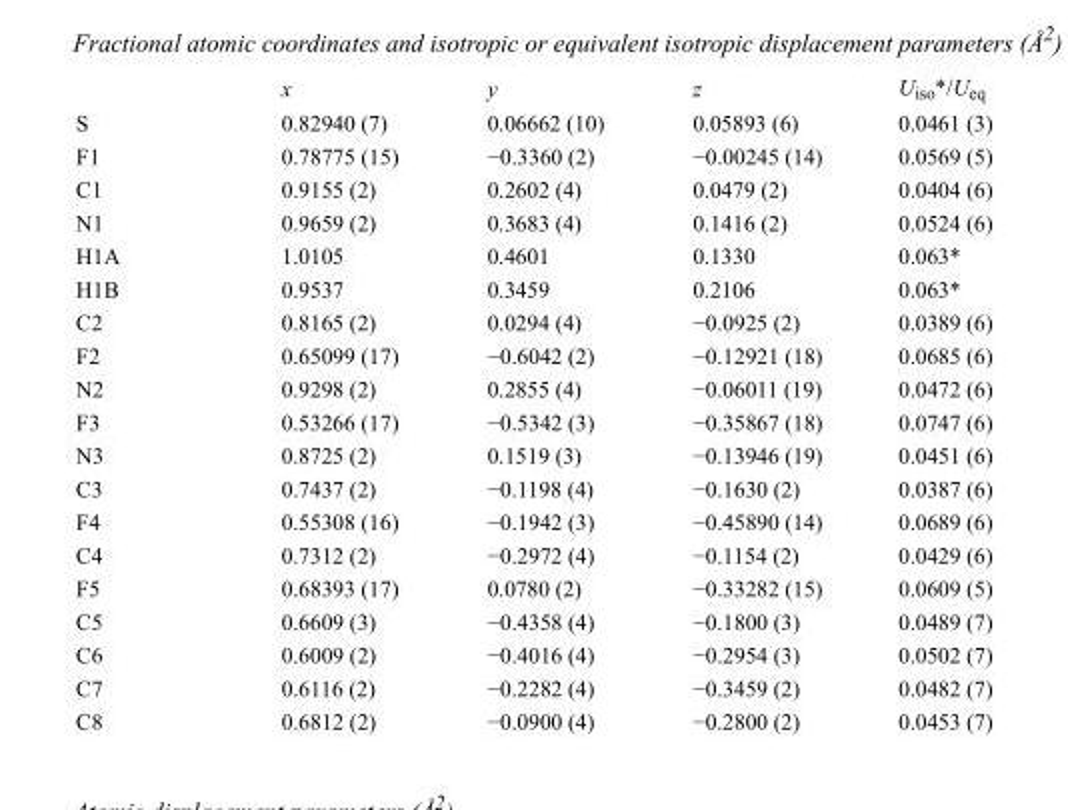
<table><thead><tr><td></td><td>x</td><td>y</td><td>z</td><td>U<sub>iso</sub>*/U<sub>eq</sub></td></tr></thead><tbody><tr><td>S</td><td>0.82940 (7)</td><td>0.06662 (10)</td><td>0.05893 (6)</td><td>0.0461 (3)</td></tr><tr><td>F1</td><td>0.78775 (15)</td><td>−0.3360 (2)</td><td>−0.00245 (14)</td><td>0.0569 (5)</td></tr><tr><td>C1</td><td>0.9155 (2)</td><td>0.2602 (4)</td><td>0.0479 (2)</td><td>0.0404 (6)</td></tr><tr><td>N1</td><td>0.9659 (2)</td><td>0.3683 (4)</td><td>0.1416 (2)</td><td>0.0524 (6)</td></tr><tr><td>H1A</td><td>1.0105</td><td>0.4601</td><td>0.1330</td><td>0.063*</td></tr><tr><td>H1B</td><td>0.9537</td><td>0.3459</td><td>0.2106</td><td>0.063*</td></tr><tr><td>C2</td><td>0.8165 (2)</td><td>0.0294 (4)</td><td>−0.0925 (2)</td><td>0.0389 (6)</td></tr><tr><td>F2</td><td>0.65099 (17)</td><td>−0.6042 (2)</td><td>−0.12921 (18)</td><td>0.0685 (6)</td></tr><tr><td>N2</td><td>0.9298 (2)</td><td>0.2855 (4)</td><td>−0.06011 (19)</td><td>0.0472 (6)</td></tr><tr><td>F3</td><td>0.53266 (17)</td><td>−0.5342 (3)</td><td>−0.35867 (18)</td><td>0.0747 (6)</td></tr><tr><td>N3</td><td>0.8725 (2)</td><td>0.1519 (3)</td><td>−0.13946 (19)</td><td>0.0451 (6)</td></tr><tr><td>C3</td><td>0.7437 (2)</td><td>−0.1198 (4)</td><td>−0.1630 (2)</td><td>0.0387 (6)</td></tr><tr><td>F4</td><td>0.55308 (16)</td><td>−0.1942 (3)</td><td>−0.45890 (14)</td><td>0.0689 (6)</td></tr><tr><td>C4</td><td>0.7312 (2)</td><td>−0.2972 (4)</td><td>−0.1154 (2)</td><td>0.0429 (6)</td></tr><tr><td>F5</td><td>0.68393 (17)</td><td>0.0780 (2)</td><td>−0.33282 (15)</td><td>0.0609 (5)</td></tr><tr><td>C5</td><td>0.6609 (3)</td><td>−0.4358 (4)</td><td>−0.1800 (3)</td><td>0.0489 (7)</td></tr><tr><td>C6</td><td>0.6009 (2)</td><td>−0.4016 (4)</td><td>−0.2954 (3)</td><td>0.0502 (7)</td></tr><tr><td>C7</td><td>0.6116 (2)</td><td>−0.2282 (4)</td><td>−0.3459 (2)</td><td>0.0482 (7)</td></tr><tr><td>C8</td><td>0.6812 (2)</td><td>−0.0900 (4)</td><td>−0.2800 (2)</td><td>0.0453 (7)</td></tr></tbody></table>